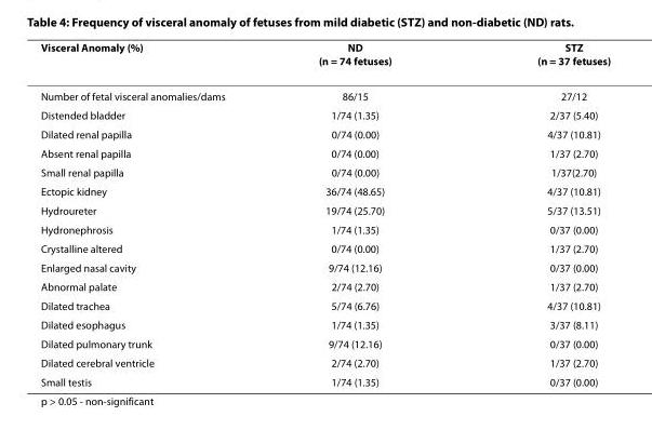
<table><thead><tr><td>Visceral Anomaly (%)</td><td>ND (n = 74 fetuses)</td><td>STZ (n = 37 fetuses)</td></tr></thead><tbody><tr><td>Number of fetal visceral anomalies/dams</td><td>86/15</td><td>27/12</td></tr><tr><td>Distended bladder</td><td>1/74 (1.35)</td><td>2/37 (5.40)</td></tr><tr><td>Dilated renal papilla</td><td>0/74 (0.00)</td><td>4/37 (10.81)</td></tr><tr><td>Absent renal papilla</td><td>0/74 (0.00)</td><td>1/37 (2.70)</td></tr><tr><td>Small renal papilla</td><td>0/74 (0.00)</td><td>1/37(2.70)</td></tr><tr><td>Ectopic kidney</td><td>36/74 (48.65)</td><td>4/37 (10.81)</td></tr><tr><td>Hydroureter</td><td>19/74 (25.70)</td><td>5/37 (13.51)</td></tr><tr><td>Hydronephrosis</td><td>1/74 (1.35)</td><td>0/37 (0.00)</td></tr><tr><td>Crystalline altered</td><td>0/74 (0.00)</td><td>1/37 (2.70)</td></tr><tr><td>Enlarged nasal cavity</td><td>9/74 (12.16)</td><td>0/37 (0.00)</td></tr><tr><td>Abnormal palate</td><td>2/74 (2.70)</td><td>1/37 (2.70)</td></tr><tr><td>Dilated trachea</td><td>5/74 (6.76)</td><td>4/37 (10.81)</td></tr><tr><td>Dilated esophagus</td><td>1/74 (1.35)</td><td>3/37 (8.11)</td></tr><tr><td>Dilated pulmonary trunk</td><td>9/74 (12.16)</td><td>0/37 (0.00)</td></tr><tr><td>Dilated cerebral ventricle</td><td>2/74 (2.70)</td><td>1/37 (2.70)</td></tr><tr><td>Small testis</td><td>1/74 (1.35)</td><td>0/37 (0.00)</td></tr></tbody></table>